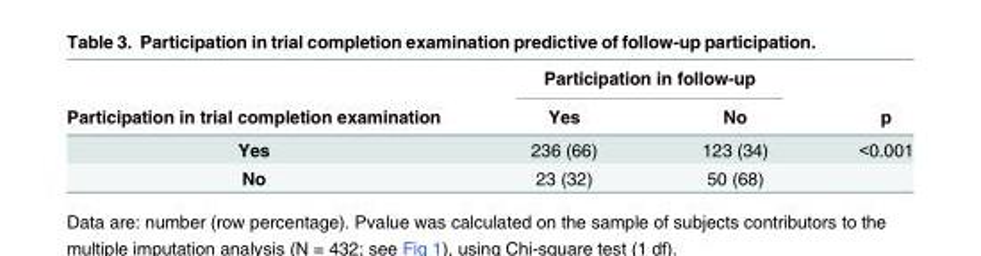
<table><thead><tr><td rowspan="2">Participation in trial completion examination</td><td colspan="2">Participation in follow-up</td><td rowspan="2">p</td></tr><tr><td>Yes</td><td>No</td></tr></thead><tbody><tr><td>Yes</td><td>236 (66)</td><td>123 (34)</td><td>&lt;0.001</td></tr><tr><td>No</td><td>23 (32)</td><td>50 (68)</td><td></td></tr></tbody></table>